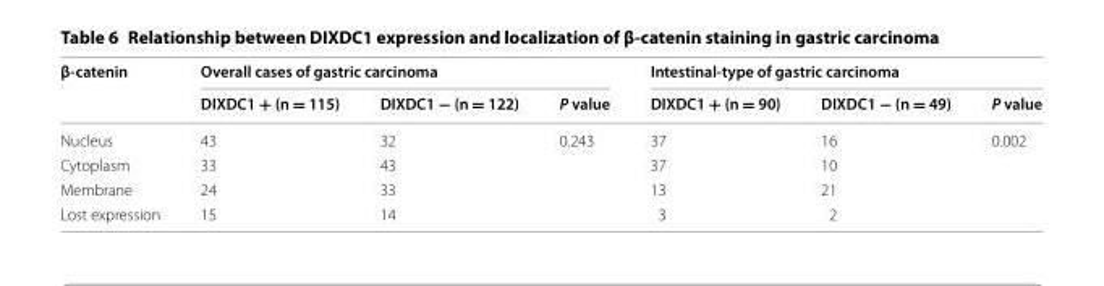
<table><thead><tr><td rowspan="2">β‑catenin</td><td colspan="3">Overall cases of gastric carcinoma</td><td colspan="3">Intestinal‑type of gastric carcinoma</td></tr><tr><td>DIXDC1 + (n = 115)</td><td>DIXDC1 − (n = 122)</td><td>P value</td><td>DIXDC1 + (n = 90)</td><td>DIXDC1 − (n = 49)</td><td>P value</td></tr></thead><tbody><tr><td>Nucleus</td><td>43</td><td>32</td><td>0.243</td><td>37</td><td>16</td><td>0.002</td></tr><tr><td>Cytoplasm</td><td>33</td><td>43</td><td></td><td>37</td><td>10</td><td></td></tr><tr><td>Membrane</td><td>24</td><td>33</td><td></td><td>13</td><td>21</td><td></td></tr><tr><td>Lost expression</td><td>15</td><td>14</td><td></td><td>3</td><td>2</td><td></td></tr></tbody></table>